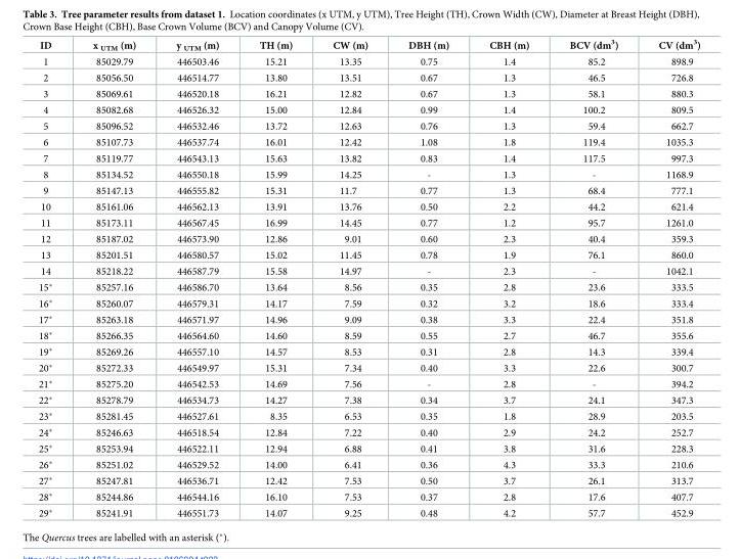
<table><thead><tr><td>ID</td><td>x <sub>UTM</sub> (m)</td><td>y <sub>UTM</sub> (m)</td><td>TH (m)</td><td>CW (m)</td><td>DBH (m)</td><td>CBH (m)</td><td>BCV (dm<sup>3</sup>)</td><td>CV (dm<sup>3</sup>)</td></tr></thead><tbody><tr><td>1</td><td>85029.79</td><td>446503.46</td><td>15.21</td><td>13.35</td><td>0.75</td><td>1.4</td><td>85.2</td><td>898.9</td></tr><tr><td>2</td><td>85056.50</td><td>446514.77</td><td>13.80</td><td>13.51</td><td>0.67</td><td>1.3</td><td>46.5</td><td>726.8</td></tr><tr><td>3</td><td>85069.61</td><td>446520.18</td><td>16.21</td><td>12.82</td><td>0.67</td><td>1.3</td><td>58.1</td><td>880.3</td></tr><tr><td>4</td><td>85082.68</td><td>446526.32</td><td>15.00</td><td>12.84</td><td>0.99</td><td>1.4</td><td>100.2</td><td>809.5</td></tr><tr><td>5</td><td>85096.52</td><td>446532.46</td><td>13.72</td><td>12.63</td><td>0.76</td><td>1.3</td><td>59.4</td><td>662.7</td></tr><tr><td>6</td><td>85107.73</td><td>446537.74</td><td>16.01</td><td>12.42</td><td>1.08</td><td>1.8</td><td>119.4</td><td>1035.3</td></tr><tr><td>7</td><td>85119.77</td><td>446543.13</td><td>15.63</td><td>13.82</td><td>0.83</td><td>1.4</td><td>117.5</td><td>997.3</td></tr><tr><td>8</td><td>85134.52</td><td>446550.18</td><td>15.99</td><td>14.25</td><td>-</td><td>1.3</td><td>-</td><td>1168.9</td></tr><tr><td>9</td><td>85147.13</td><td>446555.82</td><td>15.31</td><td>11.7</td><td>0.77</td><td>1.3</td><td>68.4</td><td>777.1</td></tr><tr><td>10</td><td>85161.06</td><td>446562.13</td><td>13.91</td><td>13.76</td><td>0.50</td><td>2.2</td><td>44.2</td><td>621.4</td></tr><tr><td>11</td><td>85173.11</td><td>446567.45</td><td>16.99</td><td>14.45</td><td>0.77</td><td>1.2</td><td>95.7</td><td>1261.0</td></tr><tr><td>12</td><td>85187.02</td><td>446573.90</td><td>12.86</td><td>9.01</td><td>0.60</td><td>2.3</td><td>40.4</td><td>359.3</td></tr><tr><td>13</td><td>85201.51</td><td>446580.57</td><td>15.02</td><td>11.45</td><td>0.78</td><td>1.9</td><td>76.1</td><td>860.0</td></tr><tr><td>14</td><td>85218.22</td><td>446587.79</td><td>15.58</td><td>14.97</td><td>-</td><td>2.3</td><td>-</td><td>1042.1</td></tr><tr><td>15*</td><td>85257.16</td><td>446586.70</td><td>13.64</td><td>8.56</td><td>0.35</td><td>2.8</td><td>23.6</td><td>333.5</td></tr><tr><td>16*</td><td>85260.07</td><td>446579.31</td><td>14.17</td><td>7.59</td><td>0.32</td><td>3.2</td><td>18.6</td><td>333.4</td></tr><tr><td>17*</td><td>85263.18</td><td>446571.97</td><td>14.96</td><td>9.09</td><td>0.38</td><td>3.3</td><td>22.4</td><td>351.8</td></tr><tr><td>18*</td><td>85266.35</td><td>446564.60</td><td>14.60</td><td>8.59</td><td>0.55</td><td>2.7</td><td>46.7</td><td>355.6</td></tr><tr><td>19*</td><td>85269.26</td><td>446557.10</td><td>14.57</td><td>8.53</td><td>0.31</td><td>2.8</td><td>14.3</td><td>339.4</td></tr><tr><td>20*</td><td>85272.33</td><td>446549.97</td><td>15.31</td><td>7.34</td><td>0.40</td><td>3.3</td><td>22.6</td><td>300.7</td></tr><tr><td>21*</td><td>85275.20</td><td>446542.53</td><td>14.69</td><td>7.56</td><td>-</td><td>2.8</td><td>-</td><td>394.2</td></tr><tr><td>22*</td><td>85278.79</td><td>446534.73</td><td>14.27</td><td>7.38</td><td>0.34</td><td>3.7</td><td>24.1</td><td>347.3</td></tr><tr><td>23*</td><td>85281.45</td><td>446527.61</td><td>8.35</td><td>6.53</td><td>0.35</td><td>1.8</td><td>28.9</td><td>203.5</td></tr><tr><td>24*</td><td>85246.63</td><td>446518.54</td><td>12.84</td><td>7.22</td><td>0.40</td><td>2.9</td><td>24.2</td><td>252.7</td></tr><tr><td>25*</td><td>85253.94</td><td>446522.11</td><td>12.94</td><td>6.88</td><td>0.41</td><td>3.8</td><td>31.6</td><td>228.3</td></tr><tr><td>26*</td><td>85251.02</td><td>446529.52</td><td>14.00</td><td>6.41</td><td>0.36</td><td>4.3</td><td>33.3</td><td>210.6</td></tr><tr><td>27*</td><td>85247.81</td><td>446536.71</td><td>12.42</td><td>7.53</td><td>0.50</td><td>3.7</td><td>26.1</td><td>313.7</td></tr><tr><td>28*</td><td>85244.86</td><td>446544.16</td><td>16.10</td><td>7.53</td><td>0.37</td><td>2.8</td><td>17.6</td><td>407.7</td></tr><tr><td>29*</td><td>85241.91</td><td>446551.73</td><td>14.07</td><td>9.25</td><td>0.48</td><td>4.2</td><td>57.7</td><td>452.9</td></tr></tbody></table>